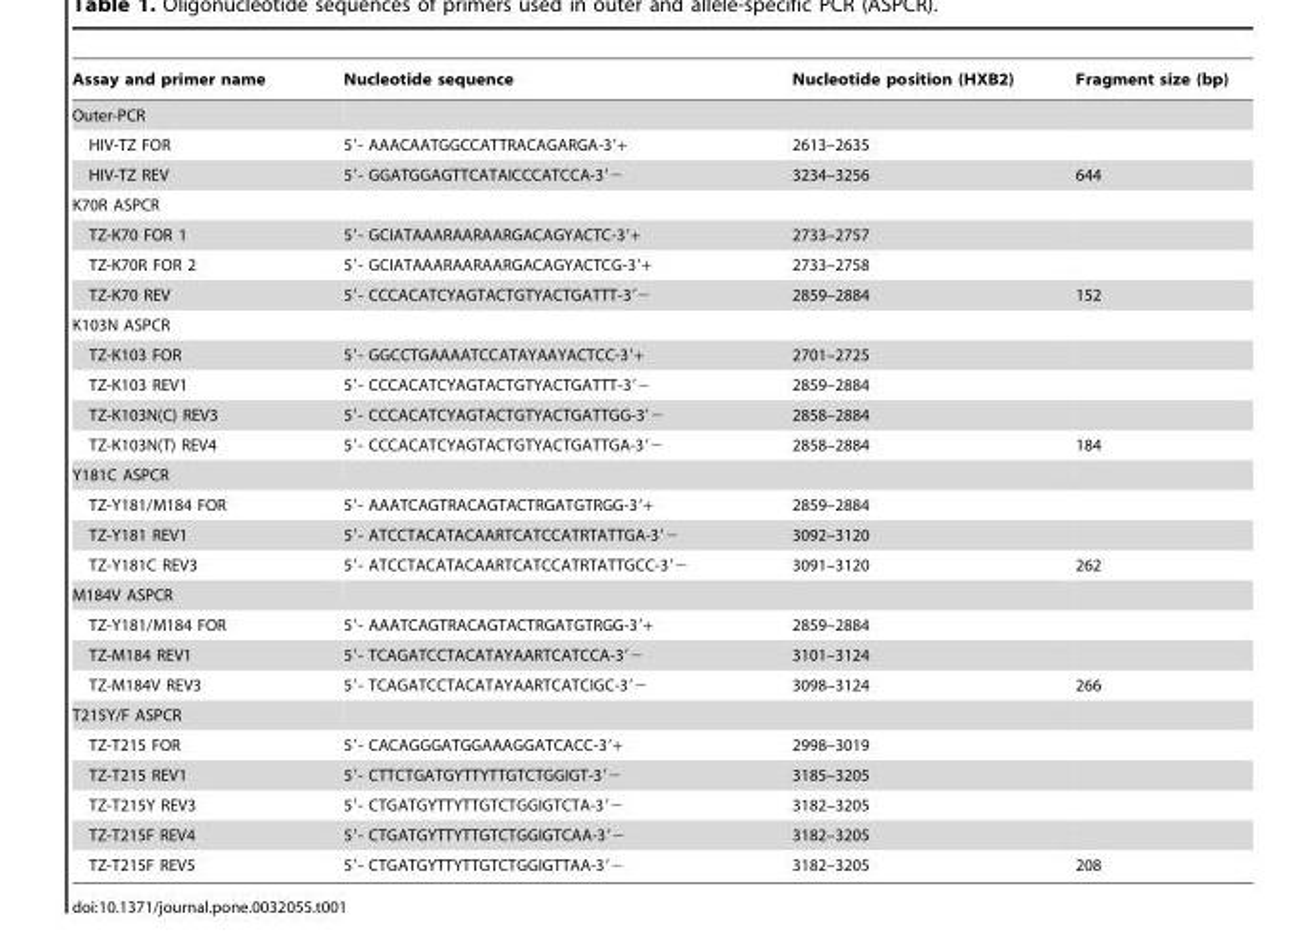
<table><thead><tr><td>Assay and primer name</td><td>Nucleotide sequence</td><td>Nucleotide position (HXB2)</td><td>Fragment size (bp)</td></tr></thead><tbody><tr><td colspan="4">Outer-PCR</td></tr><tr><td>HIV-TZ FOR</td><td>5′- AAACAATGGCCATTRACAGARGA-3′+</td><td>2613–2635</td><td></td></tr><tr><td>HIV-TZ REV</td><td>5′- GGATGGAGTTCATAICCCATCCA-3′−</td><td>3234–3256</td><td>644</td></tr><tr><td colspan="4">K70R ASPCR</td></tr><tr><td>TZ-K70 FOR 1</td><td>5′- GCIATAAARAARAARGACAGYACTC-3′+</td><td>2733–2757</td><td></td></tr><tr><td>TZ-K70R FOR 2</td><td>5′- GCIATAAARAARAARGACAGYACTCG-3′+</td><td>2733–2758</td><td></td></tr><tr><td>TZ-K70 REV</td><td>5′- CCCACATCYAGTACTGTYACTGATTT-3′−</td><td>2859–2884</td><td>152</td></tr><tr><td colspan="4">K103N ASPCR</td></tr><tr><td>TZ-K103 FOR</td><td>5′- GGCCTGAAAATCCATAYAAYACTCC-3′+</td><td>2701–2725</td><td></td></tr><tr><td>TZ-K103 REV1</td><td>5′- CCCACATCYAGTACTGTYACTGATTT-3′−</td><td>2859–2884</td><td></td></tr><tr><td>TZ-K103N(C) REV3</td><td>5′- CCCACATCYAGTACTGTYACTGATTGG-3′−</td><td>2858–2884</td><td></td></tr><tr><td>TZ-K103N(T) REV4</td><td>5′- CCCACATCYAGTACTGTYACTGATTGA-3′−</td><td>2858–2884</td><td>184</td></tr><tr><td colspan="4">Y181C ASPCR</td></tr><tr><td>TZ-Y181/M184 FOR</td><td>5′- AAATCAGTRACAGTACTRGATGTRGG-3′+</td><td>2859–2884</td><td></td></tr><tr><td>TZ-Y181 REV1</td><td>5′- ATCCTACATACAARTCATCCATRTATTGA-3′−</td><td>3092–3120</td><td></td></tr><tr><td>TZ-Y181C REV3</td><td>5′- ATCCTACATACAARTCATCCATRTATTGCC-3′−</td><td>3091–3120</td><td>262</td></tr><tr><td colspan="4">M184V ASPCR</td></tr><tr><td>TZ-Y181/M184 FOR</td><td>5′- AAATCAGTRACAGTACTRGATGTRGG-3′+</td><td>2859–2884</td><td></td></tr><tr><td>TZ-M184 REV1</td><td>5′- TCAGATCCTACATAYAARTCATCCA-3′−</td><td>3101–3124</td><td></td></tr><tr><td>TZ-M184V REV3</td><td>5′- TCAGATCCTACATAYAARTCATCIGC-3′−</td><td>3098–3124</td><td>266</td></tr><tr><td colspan="4">T215Y/F ASPCR</td></tr><tr><td>TZ-T215 FOR</td><td>5′- CACAGGGATGGAAAGGATCACC-3′+</td><td>2998–3019</td><td></td></tr><tr><td>TZ-T215 REV1</td><td>5′- CTTCTGATGYTTYTTGTCTGGIGT-3′−</td><td>3185–3205</td><td></td></tr><tr><td>TZ-T215Y REV3</td><td>5′- CTGATGYTTYTTGTCTGGIGTCTA-3′−</td><td>3182–3205</td><td></td></tr><tr><td>TZ-T215F REV4</td><td>5′- CTGATGYTTYTTGTCTGGIGTCAA-3′−</td><td>3182–3205</td><td></td></tr><tr><td>TZ-T215F REV5</td><td>5′- CTGATGYTTYTTGTCTGGIGTTAA-3′−</td><td>3182–3205</td><td>208</td></tr></tbody></table>